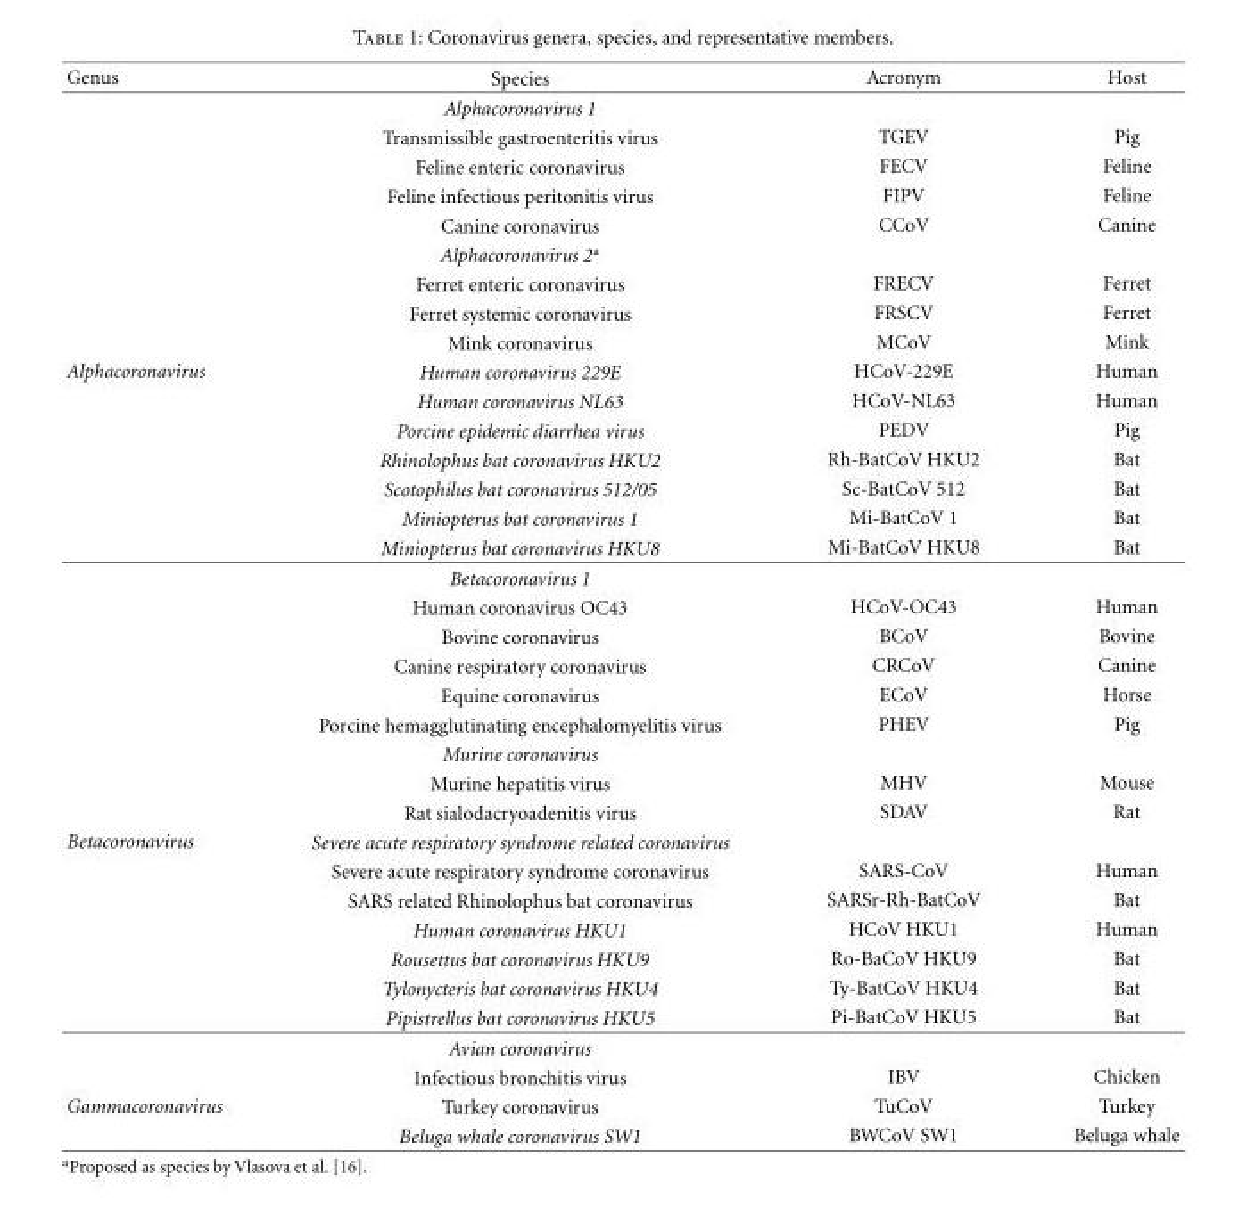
<table><thead><tr><td>Genus</td><td>Species</td><td>Acronym</td><td>Host</td></tr></thead><tbody><tr><td></td><td>Alphacoronavirus 1</td><td></td><td></td></tr><tr><td></td><td>Transmissible gastroenteritis virus</td><td>TGEV</td><td>Pig</td></tr><tr><td></td><td>Feline enteric coronavirus</td><td>FECV</td><td>Feline</td></tr><tr><td></td><td>Feline infectious peritonitis virus</td><td>FIPV</td><td>Feline</td></tr><tr><td></td><td>Canine coronavirus</td><td>CCoV</td><td>Canine</td></tr><tr><td></td><td>Alphacoronavirus 2<sup>a</sup></td><td></td><td></td></tr><tr><td></td><td>Ferret enteric coronavirus</td><td>FRECV</td><td>Ferret</td></tr><tr><td></td><td>Ferret systemic coronavirus</td><td>FRSCV</td><td>Ferret</td></tr><tr><td></td><td>Mink coronavirus</td><td>MCoV</td><td>Mink</td></tr><tr><td rowspan="16">Alphacoronavirus</td><td>Human coronavirus 229E</td><td>HCoV-229E</td><td>Human</td></tr><tr><td>Human coronavirus NL63</td><td>HCoV-NL63</td><td>Human</td></tr><tr><td>Porcine epidemic diarrhea virus</td><td>PEDV</td><td>Pig</td></tr><tr><td>Rhinolophus bat coronavirus HKU2</td><td>Rh-BatCoV HKU2</td><td>Bat</td></tr><tr><td>Scotophilus bat coronavirus 512/05</td><td>Sc-BatCoV 512</td><td>Bat</td></tr><tr><td>Miniopterus bat coronavirus 1</td><td>Mi-BatCoV 1</td><td>Bat</td></tr><tr><td>Miniopterus bat coronavirus HKU8</td><td>Mi-BatCoV HKU8</td><td>Bat</td></tr><tr><td>Betacoronavirus 1</td><td></td><td></td></tr><tr><td>Human coronavirus OC43</td><td>HCoV-OC43</td><td>Human</td></tr><tr><td>Bovine coronavirus</td><td>BCoV</td><td>Bovine</td></tr><tr><td>Canine respiratory coronavirus</td><td>CRCoV</td><td>Canine</td></tr><tr><td>Equine coronavirus</td><td>ECoV</td><td>Horse</td></tr><tr><td>Porcine hemagglutinating encephalomyelitis virus</td><td>PHEV</td><td>Pig</td></tr><tr><td>Murine coronavirus</td><td></td><td></td></tr><tr><td>Murine hepatitis virus</td><td>MHV</td><td>Mouse</td></tr><tr><td>Rat sialodacryoadenitis virus</td><td>SDAV</td><td>Rat</td></tr><tr><td rowspan="9">Betacoronavirus</td><td>Severe acute respiratory syndrome related coronavirus</td><td></td><td></td></tr><tr><td>Severe acute respiratory syndrome coronavirus</td><td>SARS-CoV</td><td>Human</td></tr><tr><td>SARS related Rhinolophus bat coronavirus</td><td>SARSr-Rh-BatCoV</td><td>Bat</td></tr><tr><td>Human coronavirus HKU1</td><td>HCoV HKU1</td><td>Human</td></tr><tr><td>Rousettus bat coronavirus HKU9</td><td>Ro-BaCoV HKU9</td><td>Bat</td></tr><tr><td>Tylonycteris bat coronavirus HKU4</td><td>Ty-BatCoV HKU4</td><td>Bat</td></tr><tr><td>Pipistrellus bat coronavirus HKU5</td><td>Pi-BatCoV HKU5</td><td>Bat</td></tr><tr><td>Avian coronavirus</td><td></td><td></td></tr><tr><td>Infectious bronchitis virus</td><td>IBV</td><td>Chicken</td></tr><tr><td rowspan="2">Gammacoronavirus</td><td>Turkey coronavirus</td><td>TuCoV</td><td>Turkey</td></tr><tr><td>Beluga whale coronavirus SW1</td><td>BWCoV SW1</td><td>Beluga whale</td></tr></tbody></table>